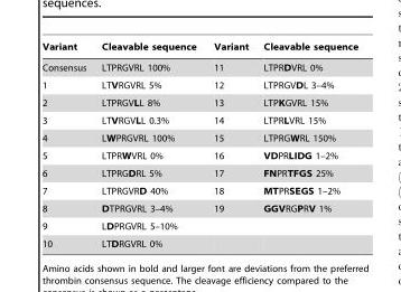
<table><thead><tr><td>Variant</td><td>Cleavable sequence</td><td>Variant</td><td>Cleavable sequence</td></tr></thead><tbody><tr><td>Consensus</td><td>LTPRGVRL 100%</td><td>11</td><td>LTPRDVRL 0%</td></tr><tr><td>1</td><td>LTVRGVRL 5%</td><td>12</td><td>LTPRGVDL 3–4%</td></tr><tr><td>2</td><td>LTPRGVLL 8%</td><td>13</td><td>LTPKGVRL 15%</td></tr><tr><td>3</td><td>LTVRGVLL 0.3%</td><td>14</td><td>LTPRLVRL 15%</td></tr><tr><td>4</td><td>LWPRGVRL 100%</td><td>15</td><td>LTPRGWRL 150%</td></tr><tr><td>5</td><td>LTPRWVRL 0%</td><td>16</td><td>VDPRLIDG 1–2%</td></tr><tr><td>6</td><td>LTPRGDRL 5%</td><td>17</td><td>FNPRTFGS 25%</td></tr><tr><td>7</td><td>LTPRGVRD 40%</td><td>18</td><td>MTPRSEGS 1–2%</td></tr><tr><td>8</td><td>DTPRGVRL 3–4%</td><td>19</td><td>GGVRGPRV 1%</td></tr><tr><td>9</td><td>LDPRGVRL 5–10%</td><td></td><td></td></tr><tr><td>10</td><td>LTDRGVRL 0%</td><td></td><td></td></tr></tbody></table>